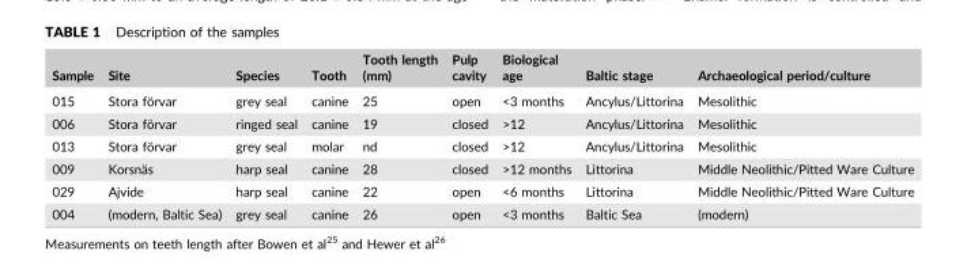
<table><thead><tr><td>Sample</td><td>Site</td><td>Species</td><td>Tooth</td><td>Tooth length (mm)</td><td>Pulp cavity</td><td>Biological age</td><td>Baltic stage</td><td>Archaeological period/culture</td></tr></thead><tbody><tr><td>015</td><td>Stora förvar</td><td>grey seal</td><td>canine</td><td>25</td><td>open</td><td>&lt;3 months</td><td>Ancylus/Littorina</td><td>Mesolithic</td></tr><tr><td>006</td><td>Stora förvar</td><td>ringed seal</td><td>canine</td><td>19</td><td>closed</td><td>&gt;12</td><td>Ancylus/Littorina</td><td>Mesolithic</td></tr><tr><td>013</td><td>Stora förvar</td><td>grey seal</td><td>molar</td><td>nd</td><td>closed</td><td>&gt;12</td><td>Ancylus/Littorina</td><td>Mesolithic</td></tr><tr><td>009</td><td>Korsnäs</td><td>harp seal</td><td>canine</td><td>28</td><td>closed</td><td>&gt;12 months</td><td>Littorina</td><td>Middle Neolithic/Pitted Ware Culture</td></tr><tr><td>029</td><td>Ajvide</td><td>harp seal</td><td>canine</td><td>22</td><td>open</td><td>&lt;6 months</td><td>Littorina</td><td>Middle Neolithic/Pitted Ware Culture</td></tr><tr><td>004</td><td>(modern, Baltic Sea)</td><td>grey seal</td><td>canine</td><td>26</td><td>open</td><td>&lt;3 months</td><td>Baltic Sea</td><td>(modern)</td></tr></tbody></table>